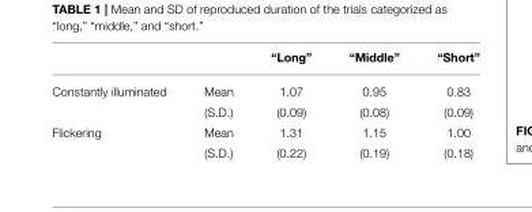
<table><thead><tr><td></td><td></td><td>“Long”</td><td>“Middle”</td><td>“Short”</td></tr></thead><tbody><tr><td rowspan="2">Constantly illuminated</td><td>Mean</td><td>1.07</td><td>0.95</td><td>0.83</td></tr><tr><td>(S.D.)</td><td>(0.09)</td><td>(0.08)</td><td>(0.09)</td></tr><tr><td rowspan="2">Flickering</td><td>Mean</td><td>1.31</td><td>1.15</td><td>1.00</td></tr><tr><td>(S.D.)</td><td>(0.22)</td><td>(0.19)</td><td>(0.18)</td></tr></tbody></table>